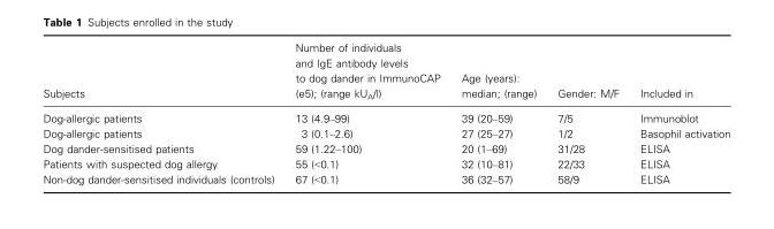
<table><thead><tr><td>Subjects</td><td>Number of individuals and IgE antibody levels to dog dander in ImmunoCAP (e5); (range kU<sub>A</sub>/l)</td><td>Age (years): median; (range)</td><td>Gender: M/F</td><td>Included in</td></tr></thead><tbody><tr><td>Dog-allergic patients</td><td>13 (4.9–99)</td><td>39 (20–59)</td><td>7/5</td><td>Immunoblot</td></tr><tr><td>Dog-allergic patients</td><td>3 (0.1–2.6)</td><td>27 (25–27)</td><td>1/2</td><td>Basophil activation</td></tr><tr><td>Dog dander-sensitised patients</td><td>59 (1.22–100)</td><td>20 (1–69)</td><td>31/28</td><td>ELISA</td></tr><tr><td>Patients with suspected dog allergy</td><td>55 (&lt;0.1)</td><td>32 (10–81)</td><td>22/33</td><td>ELISA</td></tr><tr><td>Non-dog dander-sensitised individuals (controls)</td><td>67 (&lt;0.1)</td><td>36 (32–57)</td><td>58/9</td><td>ELISA</td></tr></tbody></table>